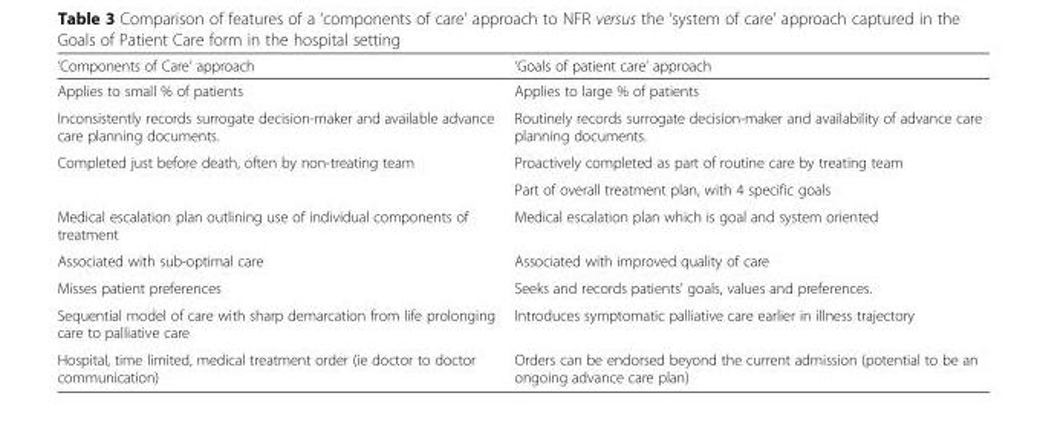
<table><thead><tr><td>‘Components of Care’ approach</td><td>‘Goals of patient care’ approach</td></tr></thead><tbody><tr><td>Applies to small % of patients</td><td>Applies to large % of patients</td></tr><tr><td>Inconsistently records surrogate decision-maker and available advance care planning documents.</td><td>Routinely records surrogate decision-maker and availability of advance care planning documents.</td></tr><tr><td rowspan="2">Completed just before death, often by non-treating team</td><td>Proactively completed as part of routine care by treating team</td></tr><tr><td>Part of overall treatment plan, with 4 specific goals</td></tr><tr><td>Medical escalation plan outlining use of individual components of treatment</td><td>Medical escalation plan which is goal and system oriented</td></tr><tr><td>Associated with sub-optimal care</td><td>Associated with improved quality of care</td></tr><tr><td>Misses patient preferences</td><td>Seeks and records patients’ goals, values and preferences.</td></tr><tr><td>Sequential model of care with sharp demarcation from life prolonging care to palliative care</td><td>Introduces symptomatic palliative care earlier in illness trajectory</td></tr><tr><td>Hospital, time limited, medical treatment order (ie doctor to doctor communication)</td><td>Orders can be endorsed beyond the current admission (potential to be an ongoing advance care plan)</td></tr></tbody></table>